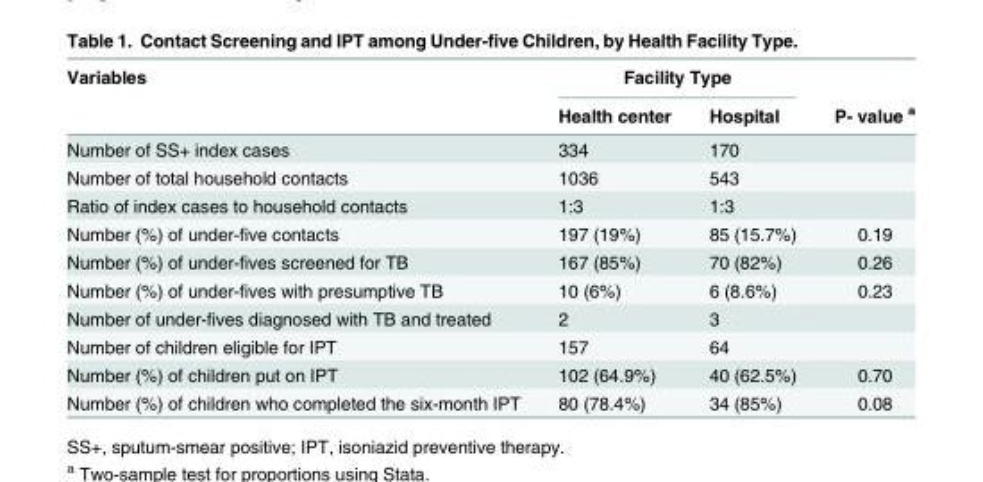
<table><thead><tr><td rowspan="2">Variables</td><td colspan="2">Facility Type</td><td rowspan="2">P- value <sup>a</sup></td></tr><tr><td>Health center</td><td>Hospital</td></tr></thead><tbody><tr><td>Number of SS+ index cases</td><td>334</td><td>170</td><td></td></tr><tr><td>Number of total household contacts</td><td>1036</td><td>543</td><td></td></tr><tr><td>Ratio of index cases to household contacts</td><td>1:3</td><td>1:3</td><td></td></tr><tr><td>Number (%) of under-five contacts</td><td>197 (19%)</td><td>85 (15.7%)</td><td>0.19</td></tr><tr><td>Number (%) of under-fives screened for TB</td><td>167 (85%)</td><td>70 (82%)</td><td>0.26</td></tr><tr><td>Number (%) of under-fives with presumptive TB</td><td>10 (6%)</td><td>6 (8.6%)</td><td>0.23</td></tr><tr><td>Number of under-fives diagnosed with TB and treated</td><td>2</td><td>3</td><td></td></tr><tr><td>Number of children eligible for IPT</td><td>157</td><td>64</td><td></td></tr><tr><td>Number (%) of children put on IPT</td><td>102 (64.9%)</td><td>40 (62.5%)</td><td>0.70</td></tr><tr><td>Number (%) of children who completed the six-month IPT</td><td>80 (78.4%)</td><td>34 (85%)</td><td>0.08</td></tr></tbody></table>